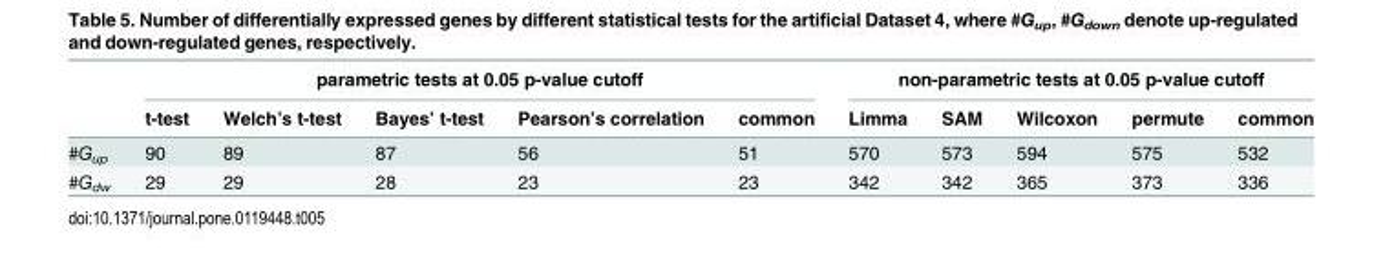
<table><thead><tr><td rowspan="2"></td><td colspan="5">parametric tests at 0.05 p-value cutoff</td><td colspan="5">non-parametric tests at 0.05 p-value cutoff</td></tr><tr><td>t-test</td><td>Welch’s t-test</td><td>Bayes’ t-test</td><td>Pearson’s correlation</td><td>common</td><td>Limma</td><td>SAM</td><td>Wilcoxon</td><td>permute</td><td>common</td></tr></thead><tbody><tr><td>#G<sub>up</sub></td><td>90</td><td>89</td><td>87</td><td>56</td><td>51</td><td>570</td><td>573</td><td>594</td><td>575</td><td>532</td></tr><tr><td>#G<sub>dw</sub></td><td>29</td><td>29</td><td>28</td><td>23</td><td>23</td><td>342</td><td>342</td><td>365</td><td>373</td><td>336</td></tr></tbody></table>